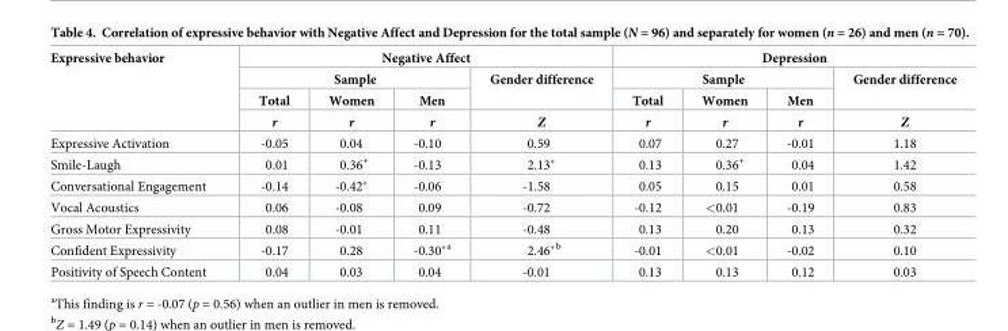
<table><thead><tr><td rowspan="4">Expressive behavior</td><td colspan="4">Negative Affect</td><td colspan="4">Depression</td></tr><tr><td colspan="3">Sample</td><td rowspan="3">Gender difference Z</td><td colspan="3">Sample</td><td rowspan="3">Gender difference Z</td></tr><tr><td rowspan="2">Total r</td><td rowspan="2">Women r</td><td rowspan="2">Men r</td><td rowspan="2">Total r</td><td rowspan="2">Women r</td><td rowspan="2">Men r</td></tr><tr></tr></thead><tbody><tr><td>Expressive Activation</td><td>-0.05</td><td>0.04</td><td>-0.10</td><td>0.59</td><td>0.07</td><td>0.27</td><td>-0.01</td><td>1.18</td></tr><tr><td>Smile-Laugh</td><td>0.01</td><td>0.36<sup>+</sup></td><td>-0.13</td><td>2.13*</td><td>0.13</td><td>0.36<sup>+</sup></td><td>0.04</td><td>1.42</td></tr><tr><td>Conversational Engagement</td><td>-0.14</td><td>-0.42*</td><td>-0.06</td><td>-1.58</td><td>0.05</td><td>0.15</td><td>0.01</td><td>0.58</td></tr><tr><td>Vocal Acoustics</td><td>0.06</td><td>-0.08</td><td>0.09</td><td>-0.72</td><td>-0.12</td><td>&lt;0.01</td><td>-0.19</td><td>0.83</td></tr><tr><td>Gross Motor Expressivity</td><td>0.08</td><td>-0.01</td><td>0.11</td><td>-0.48</td><td>0.13</td><td>0.20</td><td>0.13</td><td>0.32</td></tr><tr><td>Confident Expressivity</td><td>-0.17</td><td>0.28</td><td>-0.30*<sup>a</sup></td><td>2.46*<sup>b</sup></td><td>-0.01</td><td>&lt;0.01</td><td>-0.02</td><td>0.10</td></tr><tr><td>Positivity of Speech Content</td><td>0.04</td><td>0.03</td><td>0.04</td><td>-0.01</td><td>0.13</td><td>0.13</td><td>0.12</td><td>0.03</td></tr></tbody></table>